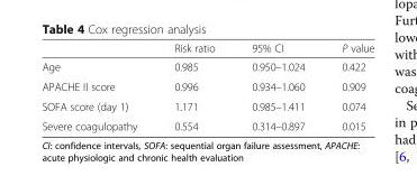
<table><thead><tr><td></td><td>Risk ratio</td><td>95% CI</td><td>P value</td></tr></thead><tbody><tr><td>Age</td><td>0.985</td><td>0.950–1.024</td><td>0.422</td></tr><tr><td>APACHE II score</td><td>0.996</td><td>0.934–1.060</td><td>0.909</td></tr><tr><td>SOFA score (day 1)</td><td>1.171</td><td>0.985–1.411</td><td>0.074</td></tr><tr><td>Severe coagulopathy</td><td>0.554</td><td>0.314–0.897</td><td>0.015</td></tr></tbody></table>